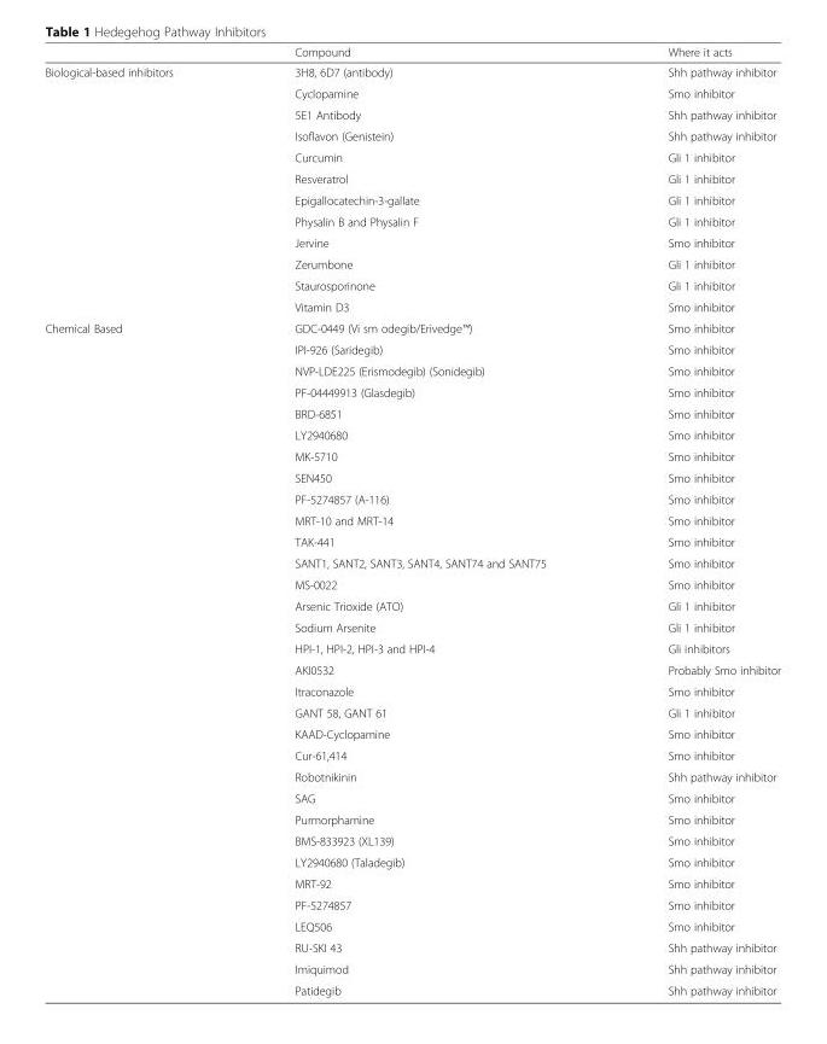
<table><thead><tr><td></td><td>Compound</td><td>Where it acts</td></tr></thead><tbody><tr><td rowspan="12">Biological-based inhibitors</td><td>3H8, 6D7 (antibody)</td><td>Shh pathway inhibitor</td></tr><tr><td>Cyclopamine</td><td>Smo inhibitor</td></tr><tr><td>5E1 Antibody</td><td>Shh pathway inhibitor</td></tr><tr><td>Isoflavon (Genistein)</td><td>Shh pathway inhibitor</td></tr><tr><td>Curcumin</td><td>Gli 1 inhibitor</td></tr><tr><td>Resveratrol</td><td>Gli 1 inhibitor</td></tr><tr><td>Epigallocatechin-3-gallate</td><td>Gli 1 inhibitor</td></tr><tr><td>Physalin B and Physalin F</td><td>Gli 1 inhibitor</td></tr><tr><td>Jervine</td><td>Smo inhibitor</td></tr><tr><td>Zerumbone</td><td>Gli 1 inhibitor</td></tr><tr><td>Staurosporinone</td><td>Gli 1 inhibitor</td></tr><tr><td>Vitamin D3</td><td>Smo inhibitor</td></tr><tr><td rowspan="32">Chemical Based</td><td>GDC-0449 (Vi sm odegib/Erivedge™)</td><td>Smo inhibitor</td></tr><tr><td>IPI-926 (Saridegib)</td><td>Smo inhibitor</td></tr><tr><td>NVP-LDE225 (Erismodegib) (Sonidegib)</td><td>Smo inhibitor</td></tr><tr><td>PF-04449913 (Glasdegib)</td><td>Smo inhibitor</td></tr><tr><td>BRD-6851</td><td>Smo inhibitor</td></tr><tr><td>LY2940680</td><td>Smo inhibitor</td></tr><tr><td>MK-5710</td><td>Smo inhibitor</td></tr><tr><td>SEN450</td><td>Smo inhibitor</td></tr><tr><td>PF-5274857 (A-116)</td><td>Smo inhibitor</td></tr><tr><td>MRT-10 and MRT-14</td><td>Smo inhibitor</td></tr><tr><td>TAK-441</td><td>Smo inhibitor</td></tr><tr><td>SANT1, SANT2, SANT3, SANT4, SANT74 and SANT75</td><td>Smo inhibitor</td></tr><tr><td>MS-0022</td><td>Smo inhibitor</td></tr><tr><td>Arsenic Trioxide (ATO)</td><td>Gli 1 inhibitor</td></tr><tr><td>Sodium Arsenite</td><td>Gli 1 inhibitor</td></tr><tr><td>HPI-1, HPI-2, HPI-3 and HPI-4</td><td>Gli inhibitors</td></tr><tr><td>AKI0532</td><td>Probably Smo inhibitor</td></tr><tr><td>Itraconazole</td><td>Smo inhibitor</td></tr><tr><td>GANT 58, GANT 61</td><td>Gli 1 inhibitor</td></tr><tr><td>KAAD-Cyclopamine</td><td>Smo inhibitor</td></tr><tr><td>Cur-61,414</td><td>Smo inhibitor</td></tr><tr><td>Robotnikinin</td><td>Shh pathway inhibitor</td></tr><tr><td>SAG</td><td>Smo inhibitor</td></tr><tr><td>Purmorphamine</td><td>Smo inhibitor</td></tr><tr><td>BMS-833923 (XL139)</td><td>Smo inhibitor</td></tr><tr><td>LY2940680 (Taladegib)</td><td>Smo inhibitor</td></tr><tr><td>MRT-92</td><td>Smo inhibitor</td></tr><tr><td>PF-5274857</td><td>Smo inhibitor</td></tr><tr><td>LEQ506</td><td>Smo inhibitor</td></tr><tr><td>RU-SKI 43</td><td>Shh pathway inhibitor</td></tr><tr><td>Imiquimod</td><td>Shh pathway inhibitor</td></tr><tr><td>Patidegib</td><td>Shh pathway inhibitor</td></tr></tbody></table>